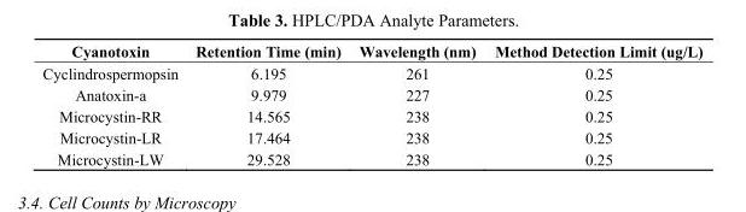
<table><thead><tr><td>Cyanotoxin</td><td>Retention Time (min)</td><td>Wavelength (nm)</td><td>Method Detection Limit (ug/L)</td></tr></thead><tbody><tr><td>Cyclindrospermopsin</td><td>6.195</td><td>261</td><td>0.25</td></tr><tr><td>Anatoxin-a</td><td>9.979</td><td>227</td><td>0.25</td></tr><tr><td>Microcystin-RR</td><td>14.565</td><td>238</td><td>0.25</td></tr><tr><td>Microcystin-LR</td><td>17.464</td><td>238</td><td>0.25</td></tr><tr><td>Microcystin-LW</td><td>29.528</td><td>238</td><td>0.25</td></tr></tbody></table>